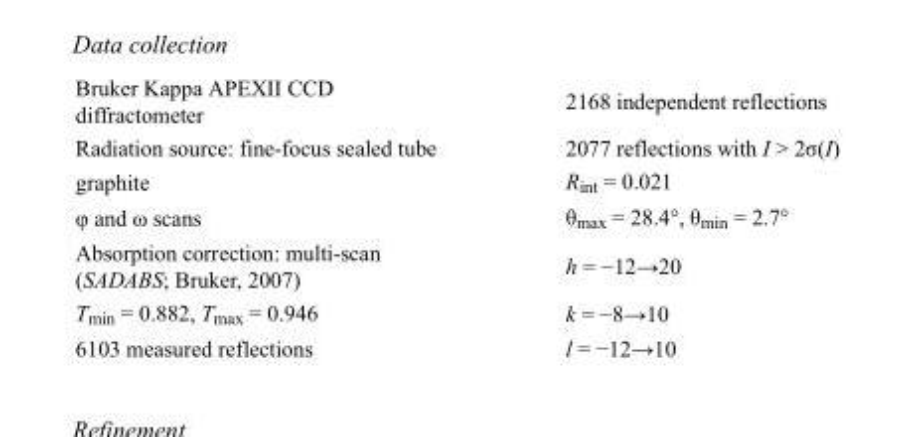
<table><tbody><tr><td>Bruker Kappa APEXII CCD diffractometer</td><td>2168 independent reflections</td></tr><tr><td>Radiation source: fine-focus sealed tube</td><td>2077 reflections with I &gt; 2σ(I)</td></tr><tr><td>graphite</td><td>R<sub>int</sub> = 0.021</td></tr><tr><td>φ and ω scans</td><td>θ<sub>max</sub> = 28.4°, θ<sub>min</sub> = 2.7°</td></tr><tr><td>Absorption correction: multi-scan (SADABS; Bruker, 2007)</td><td>h = −12→20</td></tr><tr><td>T<sub>min</sub> = 0.882, T<sub>max</sub> = 0.946</td><td>k = −8→10</td></tr><tr><td>6103 measured reflections</td><td>l = −12→10</td></tr></tbody></table>